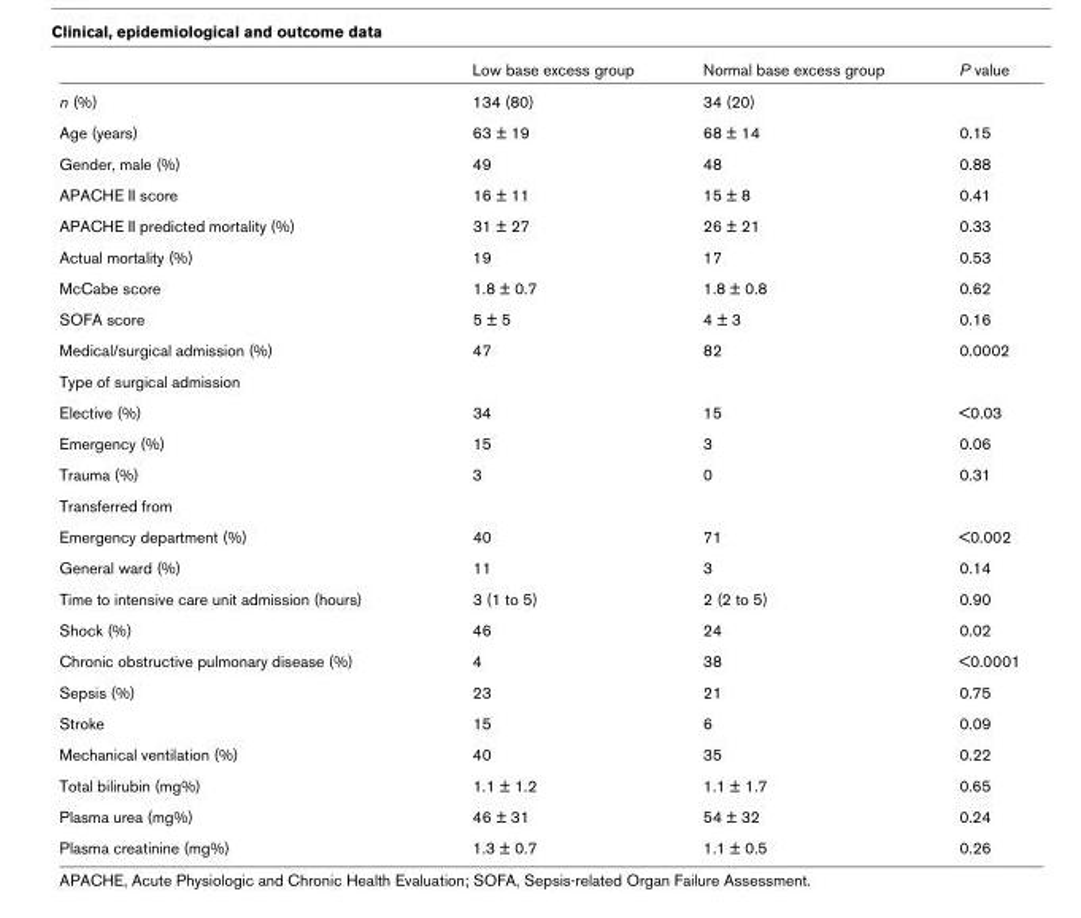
<table><thead><tr><td></td><td>Low base excess group</td><td>Normal base excess group</td><td>P value</td></tr></thead><tbody><tr><td>n (%)</td><td>134 (80)</td><td>34 (20)</td><td></td></tr><tr><td>Age (years)</td><td>63 ± 19</td><td>68 ± 14</td><td>0.15</td></tr><tr><td>Gender, male (%)</td><td>49</td><td>48</td><td>0.88</td></tr><tr><td>APACHE II score</td><td>16 ± 11</td><td>15 ± 8</td><td>0.41</td></tr><tr><td>APACHE II predicted mortality (%)</td><td>31 ± 27</td><td>26 ± 21</td><td>0.33</td></tr><tr><td>Actual mortality (%)</td><td>19</td><td>17</td><td>0.53</td></tr><tr><td>McCabe score</td><td>1.8 ± 0.7</td><td>1.8 ± 0.8</td><td>0.62</td></tr><tr><td>SOFA score</td><td>5 ± 5</td><td>4 ± 3</td><td>0.16</td></tr><tr><td>Medical/surgical admission (%)</td><td>47</td><td>82</td><td>0.0002</td></tr><tr><td colspan="4">Type of surgical admission</td></tr><tr><td>Elective (%)</td><td>34</td><td>15</td><td>&lt;0.03</td></tr><tr><td>Emergency (%)</td><td>15</td><td>3</td><td>0.06</td></tr><tr><td>Trauma (%)</td><td>3</td><td>0</td><td>0.31</td></tr><tr><td colspan="4">Transferred from</td></tr><tr><td>Emergency department (%)</td><td>40</td><td>71</td><td>&lt;0.002</td></tr><tr><td>General ward (%)</td><td>11</td><td>3</td><td>0.14</td></tr><tr><td>Time to intensive care unit admission (hours)</td><td>3 (1 to 5)</td><td>2 (2 to 5)</td><td>0.90</td></tr><tr><td>Shock (%)</td><td>46</td><td>24</td><td>0.02</td></tr><tr><td>Chronic obstructive pulmonary disease (%)</td><td>4</td><td>38</td><td>&lt;0.0001</td></tr><tr><td>Sepsis (%)</td><td>23</td><td>21</td><td>0.75</td></tr><tr><td>Stroke</td><td>15</td><td>6</td><td>0.09</td></tr><tr><td>Mechanical ventilation (%)</td><td>40</td><td>35</td><td>0.22</td></tr><tr><td>Total bilirubin (mg%)</td><td>1.1 ± 1.2</td><td>1.1 ± 1.7</td><td>0.65</td></tr><tr><td>Plasma urea (mg%)</td><td>46 ± 31</td><td>54 ± 32</td><td>0.24</td></tr><tr><td>Plasma creatinine (mg%)</td><td>1.3 ± 0.7</td><td>1.1 ± 0.5</td><td>0.26</td></tr></tbody></table>